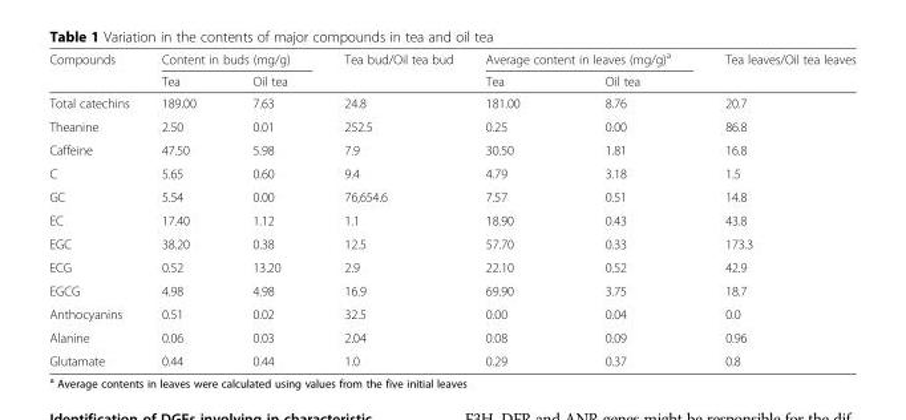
<table><thead><tr><td rowspan="2">Compounds</td><td colspan="2">Content in buds (mg/g)</td><td rowspan="2">Tea bud/Oil tea bud</td><td colspan="2">Average content in leaves (mg/g)<sup>a</sup></td><td rowspan="2">Tea leaves/Oil tea leaves</td></tr><tr><td>Tea</td><td>Oil tea</td><td>Tea</td><td>Oil tea</td></tr></thead><tbody><tr><td>Total catechins</td><td>189.00</td><td>7.63</td><td>24.8</td><td>181.00</td><td>8.76</td><td>20.7</td></tr><tr><td>Theanine</td><td>2.50</td><td>0.01</td><td>252.5</td><td>0.25</td><td>0.00</td><td>86.8</td></tr><tr><td>Caffeine</td><td>47.50</td><td>5.98</td><td>7.9</td><td>30.50</td><td>1.81</td><td>16.8</td></tr><tr><td>C</td><td>5.65</td><td>0.60</td><td>9.4</td><td>4.79</td><td>3.18</td><td>1.5</td></tr><tr><td>GC</td><td>5.54</td><td>0.00</td><td>76,654.6</td><td>7.57</td><td>0.51</td><td>14.8</td></tr><tr><td>EC</td><td>17.40</td><td>1.12</td><td>1.1</td><td>18.90</td><td>0.43</td><td>43.8</td></tr><tr><td>EGC</td><td>38.20</td><td>0.38</td><td>12.5</td><td>57.70</td><td>0.33</td><td>173.3</td></tr><tr><td>ECG</td><td>0.52</td><td>13.20</td><td>2.9</td><td>22.10</td><td>0.52</td><td>42.9</td></tr><tr><td>EGCG</td><td>4.98</td><td>4.98</td><td>16.9</td><td>69.90</td><td>3.75</td><td>18.7</td></tr><tr><td>Anthocyanins</td><td>0.51</td><td>0.02</td><td>32.5</td><td>0.00</td><td>0.04</td><td>0.0</td></tr><tr><td>Alanine</td><td>0.06</td><td>0.03</td><td>2.04</td><td>0.08</td><td>0.09</td><td>0.96</td></tr><tr><td>Glutamate</td><td>0.44</td><td>0.44</td><td>1.0</td><td>0.29</td><td>0.37</td><td>0.8</td></tr></tbody></table>